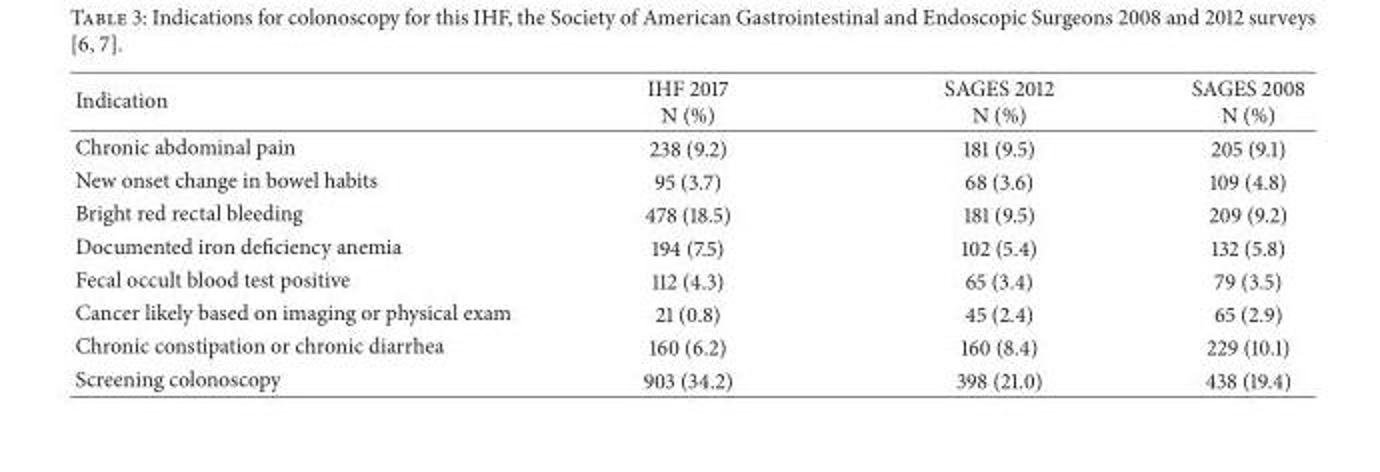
<table><thead><tr><td>Indication</td><td>IHF 2017 N (%)</td><td>SAGES 2012 N (%)</td><td>SAGES 2008 N (%)</td></tr></thead><tbody><tr><td>Chronic abdominal pain</td><td>238 (9.2)</td><td>181 (9.5)</td><td>205 (9.1)</td></tr><tr><td>New onset change in bowel habits</td><td>95 (3.7)</td><td>68 (3.6)</td><td>109 (4.8)</td></tr><tr><td>Bright red rectal bleeding</td><td>478 (18.5)</td><td>181 (9.5)</td><td>209 (9.2)</td></tr><tr><td>Documented iron deficiency anemia</td><td>194 (7.5)</td><td>102 (5.4)</td><td>132 (5.8)</td></tr><tr><td>Fecal occult blood test positive</td><td>112 (4.3)</td><td>65 (3.4)</td><td>79 (3.5)</td></tr><tr><td>Cancer likely based on imaging or physical exam</td><td>21 (0.8)</td><td>45 (2.4)</td><td>65 (2.9)</td></tr><tr><td>Chronic constipation or chronic diarrhea</td><td>160 (6.2)</td><td>160 (8.4)</td><td>229 (10.1)</td></tr><tr><td>Screening colonoscopy</td><td>903 (34.2)</td><td>398 (21.0)</td><td>438 (19.4)</td></tr></tbody></table>